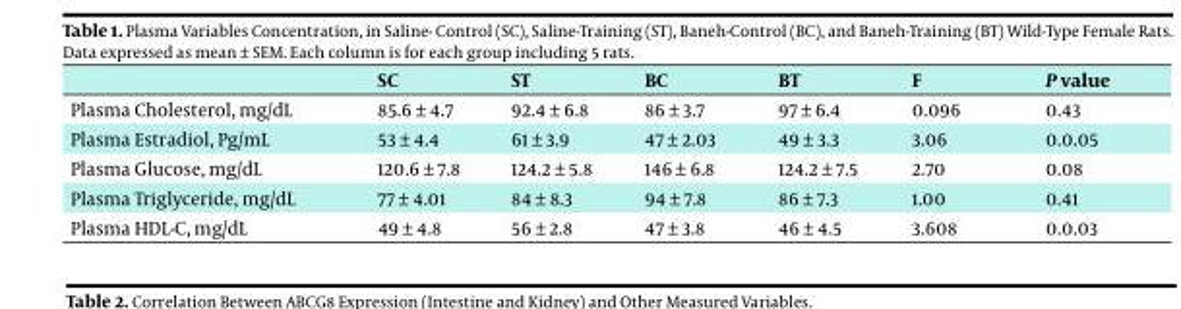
<table><thead><tr><td></td><td>SC</td><td>ST</td><td>BC</td><td>BT</td><td>F</td><td>P value</td></tr></thead><tbody><tr><td>Plasma Cholesterol, mg/dL</td><td>85.6 ± 4.7</td><td>92.4 ± 6.8</td><td>86 ± 3.7</td><td>97 ± 6.4</td><td>0.096</td><td>0.43</td></tr><tr><td>Plasma Estradiol, Pg/mL</td><td>53 ± 4.4</td><td>61 ± 3.9</td><td>47 ± 2.03</td><td>49 ± 3.3</td><td>3.06</td><td>0.0.05</td></tr><tr><td>Plasma Glucose, mg/dL</td><td>120.6 ± 7.8</td><td>124.2 ± 5.8</td><td>146 ± 6.8</td><td>124.2 ± 7.5</td><td>2.70</td><td>0.08</td></tr><tr><td>Plasma Triglyceride, mg/dL</td><td>77 ± 4.01</td><td>84 ± 8.3</td><td>94 ± 7.8</td><td>86 ± 7.3</td><td>1.00</td><td>0.41</td></tr><tr><td>Plasma HDL-C, mg/dL</td><td>49 ± 4.8</td><td>56 ± 2.8</td><td>47 ± 3.8</td><td>46 ± 4.5</td><td>3.608</td><td>0.0.03</td></tr></tbody></table>